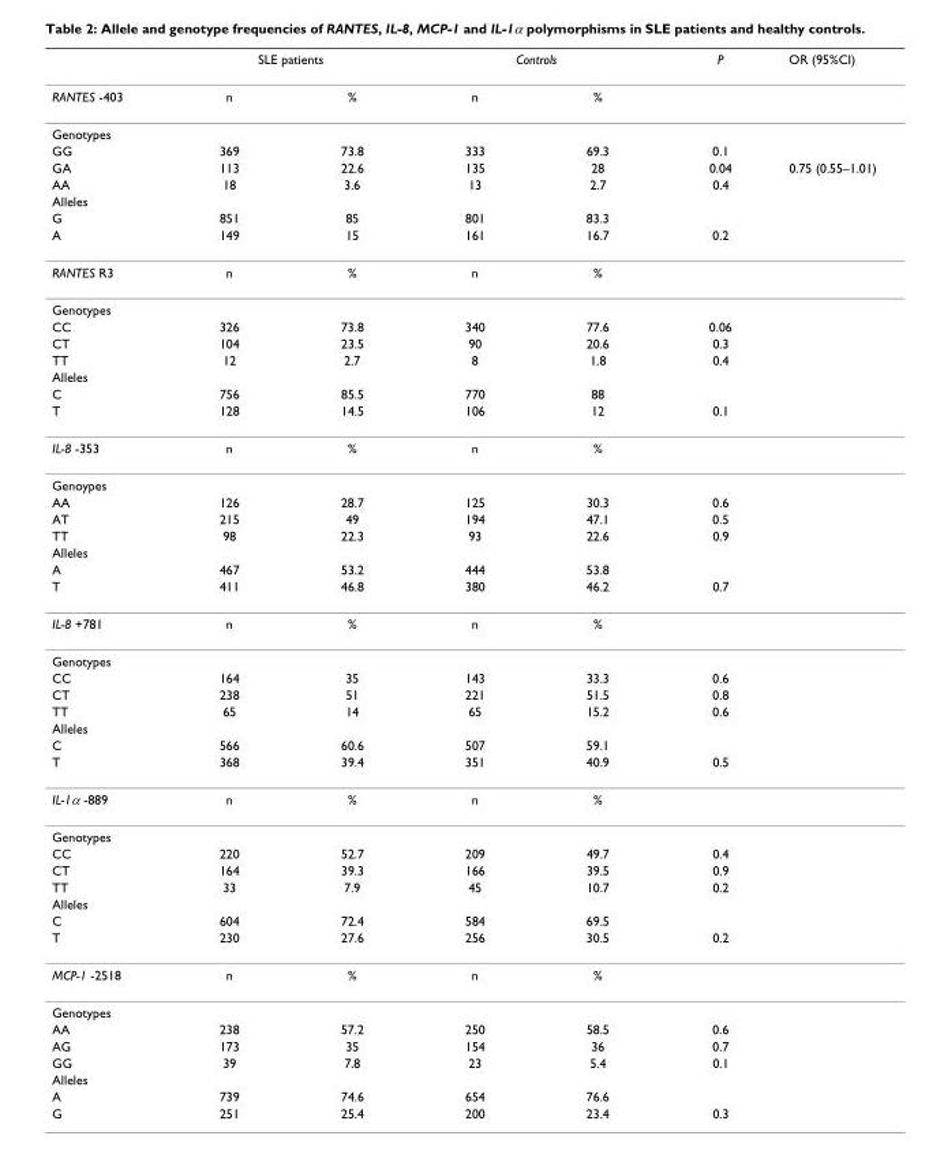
<table><thead><tr><td rowspan="2">RANTES -403</td><td colspan="2">SLE patients</td><td colspan="2">Controls</td><td rowspan="2">P</td><td rowspan="2">OR (95%CI)</td></tr><tr><td>n</td><td>%</td><td>n</td><td>%</td></tr></thead><tbody><tr><td colspan="7">Genotypes</td></tr><tr><td>GG</td><td>369</td><td>73.8</td><td>333</td><td>69.3</td><td>0.1</td><td></td></tr><tr><td>GA</td><td>113</td><td>22.6</td><td>135</td><td>28</td><td>0.04</td><td>0.75 (0.55–1.01)</td></tr><tr><td>AA</td><td>18</td><td>3.6</td><td>13</td><td>2.7</td><td>0.4</td><td></td></tr><tr><td colspan="7">Alleles</td></tr><tr><td>G</td><td>851</td><td>85</td><td>801</td><td>83.3</td><td></td><td></td></tr><tr><td>A</td><td>149</td><td>15</td><td>161</td><td>16.7</td><td>0.2</td><td></td></tr><tr><td>RANTES R3</td><td>n</td><td>%</td><td>n</td><td>%</td><td></td><td></td></tr><tr><td colspan="7">Genotypes</td></tr><tr><td>CC</td><td>326</td><td>73.8</td><td>340</td><td>77.6</td><td>0.06</td><td></td></tr><tr><td>CT</td><td>104</td><td>23.5</td><td>90</td><td>20.6</td><td>0.3</td><td></td></tr><tr><td>TT</td><td>12</td><td>2.7</td><td>8</td><td>1.8</td><td>0.4</td><td></td></tr><tr><td colspan="7">Alleles</td></tr><tr><td>C</td><td>756</td><td>85.5</td><td>770</td><td>88</td><td></td><td></td></tr><tr><td>T</td><td>128</td><td>14.5</td><td>106</td><td>12</td><td>0.1</td><td></td></tr><tr><td>IL-8 -353</td><td>n</td><td>%</td><td>n</td><td>%</td><td></td><td></td></tr><tr><td colspan="7">Genoypes</td></tr><tr><td>AA</td><td>126</td><td>28.7</td><td>125</td><td>30.3</td><td>0.6</td><td></td></tr><tr><td>AT</td><td>215</td><td>49</td><td>194</td><td>47.1</td><td>0.5</td><td></td></tr><tr><td>TT</td><td>98</td><td>22.3</td><td>93</td><td>22.6</td><td>0.9</td><td></td></tr><tr><td colspan="7">Alleles</td></tr><tr><td>A</td><td>467</td><td>53.2</td><td>444</td><td>53.8</td><td></td><td></td></tr><tr><td>T</td><td>411</td><td>46.8</td><td>380</td><td>46.2</td><td>0.7</td><td></td></tr><tr><td>IL-8 +781</td><td>n</td><td>%</td><td>n</td><td>%</td><td></td><td></td></tr><tr><td colspan="7">Genotypes</td></tr><tr><td>CC</td><td>164</td><td>35</td><td>143</td><td>33.3</td><td>0.6</td><td></td></tr><tr><td>CT</td><td>238</td><td>51</td><td>221</td><td>51.5</td><td>0.8</td><td></td></tr><tr><td>TT</td><td>65</td><td>14</td><td>65</td><td>15.2</td><td>0.6</td><td></td></tr><tr><td colspan="7">Alleles</td></tr><tr><td>C</td><td>566</td><td>60.6</td><td>507</td><td>59.1</td><td></td><td></td></tr><tr><td>T</td><td>368</td><td>39.4</td><td>351</td><td>40.9</td><td>0.5</td><td></td></tr><tr><td>IL-1α -889</td><td>n</td><td>%</td><td>n</td><td>%</td><td></td><td></td></tr><tr><td colspan="7">Genotypes</td></tr><tr><td>CC</td><td>220</td><td>52.7</td><td>209</td><td>49.7</td><td>0.4</td><td></td></tr><tr><td>CT</td><td>164</td><td>39.3</td><td>166</td><td>39.5</td><td>0.9</td><td></td></tr><tr><td>TT</td><td>33</td><td>7.9</td><td>45</td><td>10.7</td><td>0.2</td><td></td></tr><tr><td colspan="7">Alleles</td></tr><tr><td>C</td><td>604</td><td>72.4</td><td>584</td><td>69.5</td><td></td><td></td></tr><tr><td>T</td><td>230</td><td>27.6</td><td>256</td><td>30.5</td><td>0.2</td><td></td></tr><tr><td>MCP-1 -2518</td><td>n</td><td>%</td><td>n</td><td>%</td><td></td><td></td></tr><tr><td colspan="7">Genotypes</td></tr><tr><td>AA</td><td>238</td><td>57.2</td><td>250</td><td>58.5</td><td>0.6</td><td></td></tr><tr><td>AG</td><td>173</td><td>35</td><td>154</td><td>36</td><td>0.7</td><td></td></tr><tr><td>GG</td><td>39</td><td>7.8</td><td>23</td><td>5.4</td><td>0.1</td><td></td></tr><tr><td colspan="7">Alleles</td></tr><tr><td>A</td><td>739</td><td>74.6</td><td>654</td><td>76.6</td><td></td><td></td></tr><tr><td>G</td><td>251</td><td>25.4</td><td>200</td><td>23.4</td><td>0.3</td><td></td></tr></tbody></table>